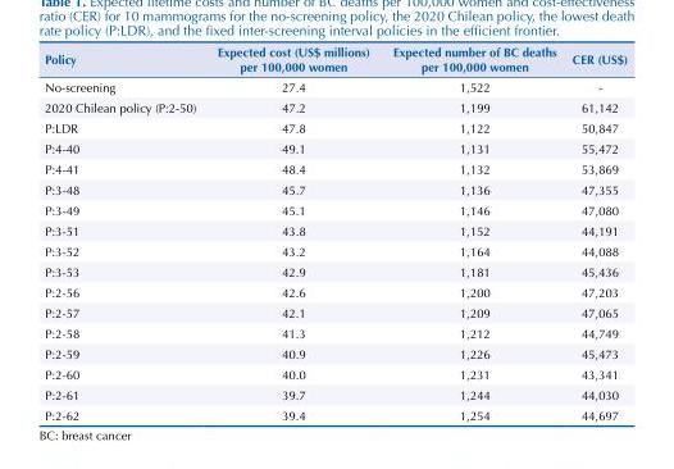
<table><thead><tr><td>Policy</td><td>Expected cost (US$ millions) per 100,000 women</td><td>Expected number of BC deaths per 100,000 women</td><td>CER (US$)</td></tr></thead><tbody><tr><td>No-screening</td><td>27.4</td><td>1,522</td><td>-</td></tr><tr><td>2020 Chilean policy (P:2-50)</td><td>47.2</td><td>1,199</td><td>61,142</td></tr><tr><td>P:LDR</td><td>47.8</td><td>1,122</td><td>50,847</td></tr><tr><td>P:4-40</td><td>49.1</td><td>1,131</td><td>55,472</td></tr><tr><td>P:4-41</td><td>48.4</td><td>1,132</td><td>53,869</td></tr><tr><td>P:3-48</td><td>45.7</td><td>1,136</td><td>47,355</td></tr><tr><td>P:3-49</td><td>45.1</td><td>1,146</td><td>47,080</td></tr><tr><td>P:3-51</td><td>43.8</td><td>1,152</td><td>44,191</td></tr><tr><td>P:3-52</td><td>43.2</td><td>1,164</td><td>44,088</td></tr><tr><td>P:3-53</td><td>42.9</td><td>1,181</td><td>45,436</td></tr><tr><td>P:2-56</td><td>42.6</td><td>1,200</td><td>47,203</td></tr><tr><td>P:2-57</td><td>42.1</td><td>1,209</td><td>47,065</td></tr><tr><td>P:2-58</td><td>41.3</td><td>1,212</td><td>44,749</td></tr><tr><td>P:2-59</td><td>40.9</td><td>1,226</td><td>45,473</td></tr><tr><td>P:2-60</td><td>40.0</td><td>1,231</td><td>43,341</td></tr><tr><td>P:2-61</td><td>39.7</td><td>1,244</td><td>44,030</td></tr><tr><td>P:2-62</td><td>39.4</td><td>1,254</td><td>44,697</td></tr></tbody></table>